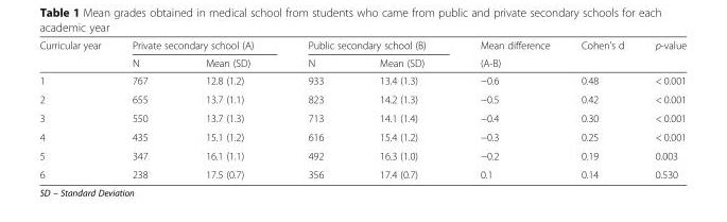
<table><thead><tr><td rowspan="2">Curricular year</td><td colspan="2">Private secondary school (A)</td><td colspan="2">Public secondary school (B)</td><td rowspan="2">Mean difference (A-B)</td><td rowspan="2">Cohen’s d</td><td rowspan="2">p-value</td></tr><tr><td>N</td><td>Mean (SD)</td><td>N</td><td>Mean (SD)</td></tr></thead><tbody><tr><td>1</td><td>767</td><td>12.8 (1.2)</td><td>933</td><td>13.4 (1.3)</td><td>−0.6</td><td>0.48</td><td>&lt; 0.001</td></tr><tr><td>2</td><td>655</td><td>13.7 (1.1)</td><td>823</td><td>14.2 (1.3)</td><td>−0.5</td><td>0.42</td><td>&lt; 0.001</td></tr><tr><td>3</td><td>550</td><td>13.7 (1.3)</td><td>713</td><td>14.1 (1.4)</td><td>−0.4</td><td>0.30</td><td>&lt; 0.001</td></tr><tr><td>4</td><td>435</td><td>15.1 (1.2)</td><td>616</td><td>15.4 (1.2)</td><td>−0.3</td><td>0.25</td><td>&lt; 0.001</td></tr><tr><td>5</td><td>347</td><td>16.1 (1.1)</td><td>492</td><td>16.3 (1.0)</td><td>−0.2</td><td>0.19</td><td>0.003</td></tr><tr><td>6</td><td>238</td><td>17.5 (0.7)</td><td>356</td><td>17.4 (0.7)</td><td>0.1</td><td>0.14</td><td>0.530</td></tr></tbody></table>